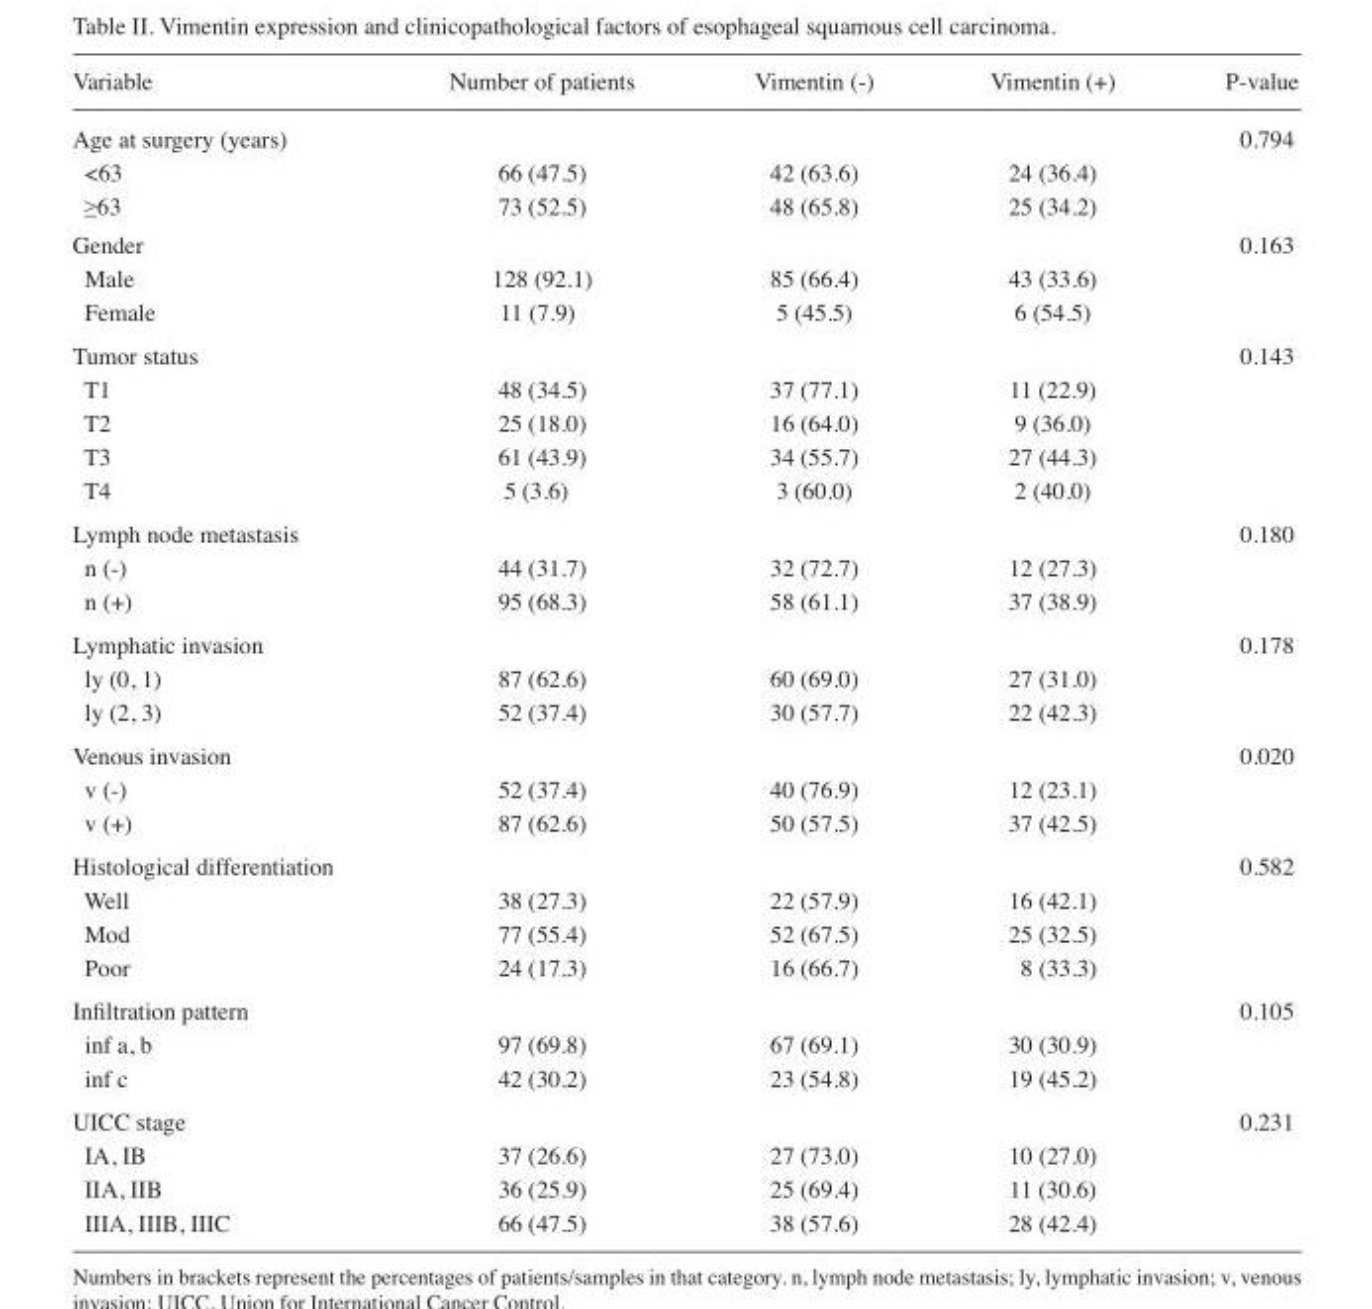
<table><thead><tr><td>Variable</td><td>Number of patients</td><td>Vimentin (-)</td><td>Vimentin (+)</td><td>P-value</td></tr></thead><tbody><tr><td>Age at surgery (years)</td><td></td><td></td><td></td><td>0.794</td></tr><tr><td>&lt;63</td><td>66 (47.5)</td><td>42 (63.6)</td><td>24 (36.4)</td><td></td></tr><tr><td>≥63</td><td>73 (52.5)</td><td>48 (65.8)</td><td>25 (34.2)</td><td></td></tr><tr><td>Gender</td><td></td><td></td><td></td><td>0.163</td></tr><tr><td>Male</td><td>128 (92.1)</td><td>85 (66.4)</td><td>43 (33.6)</td><td></td></tr><tr><td>Female</td><td>11 (7.9)</td><td>5 (45.5)</td><td>6 (54.5)</td><td></td></tr><tr><td>Tumor status</td><td></td><td></td><td></td><td>0.143</td></tr><tr><td>T1</td><td>48 (34.5)</td><td>37 (77.1)</td><td>11 (22.9)</td><td></td></tr><tr><td>T2</td><td>25 (18.0)</td><td>16 (64.0)</td><td>9 (36.0)</td><td></td></tr><tr><td>T3</td><td>61 (43.9)</td><td>34 (55.7)</td><td>27 (44.3)</td><td></td></tr><tr><td>T4</td><td>5 (3.6)</td><td>3 (60.0)</td><td>2 (40.0)</td><td></td></tr><tr><td>Lymph node metastasis</td><td></td><td></td><td></td><td>0.180</td></tr><tr><td>n (‑)</td><td>44 (31.7)</td><td>32 (72.7)</td><td>12 (27.3)</td><td></td></tr><tr><td>n (+)</td><td>95 (68.3)</td><td>58 (61.1)</td><td>37 (38.9)</td><td></td></tr><tr><td>Lymphatic invasion</td><td></td><td></td><td></td><td>0.178</td></tr><tr><td>ly (0, 1)</td><td>87 (62.6)</td><td>60 (69.0)</td><td>27 (31.0)</td><td></td></tr><tr><td>ly (2, 3)</td><td>52 (37.4)</td><td>30 (57.7)</td><td>22 (42.3)</td><td></td></tr><tr><td>Venous invasion</td><td></td><td></td><td></td><td>0.020</td></tr><tr><td>v (‑)</td><td>52 (37.4)</td><td>40 (76.9)</td><td>12 (23.1)</td><td></td></tr><tr><td>v (+)</td><td>87 (62.6)</td><td>50 (57.5)</td><td>37 (42.5)</td><td></td></tr><tr><td>Histological differentiation</td><td></td><td></td><td></td><td>0.582</td></tr><tr><td>Well</td><td>38 (27.3)</td><td>22 (57.9)</td><td>16 (42.1)</td><td></td></tr><tr><td>Mod</td><td>77 (55.4)</td><td>52 (67.5)</td><td>25 (32.5)</td><td></td></tr><tr><td>Poor</td><td>24 (17.3)</td><td>16 (66.7)</td><td>8 (33.3)</td><td></td></tr><tr><td>Infiltration pattern</td><td></td><td></td><td></td><td>0.105</td></tr><tr><td>inf a, b</td><td>97 (69.8)</td><td>67 (69.1)</td><td>30 (30.9)</td><td></td></tr><tr><td>inf c</td><td>42 (30.2)</td><td>23 (54.8)</td><td>19 (45.2)</td><td></td></tr><tr><td>UICC stage</td><td></td><td></td><td></td><td>0.231</td></tr><tr><td>IA, IB</td><td>37 (26.6)</td><td>27 (73.0)</td><td>10 (27.0)</td><td></td></tr><tr><td>IIA, IIB</td><td>36 (25.9)</td><td>25 (69.4)</td><td>11 (30.6)</td><td></td></tr><tr><td>IIIA, IIIB, IIIC</td><td>66 (47.5)</td><td>38 (57.6)</td><td>28 (42.4)</td><td></td></tr></tbody></table>